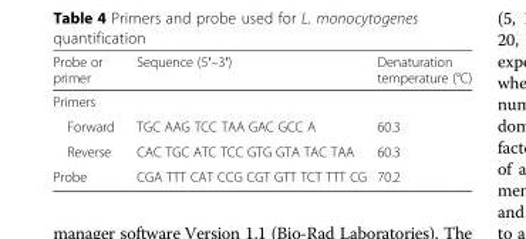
<table><thead><tr><td>Probe or primer</td><td>Sequence (5′–3′)</td><td>Denaturation temperature (°C)</td></tr></thead><tbody><tr><td colspan="3">Primers</td></tr><tr><td>Forward</td><td>TGC AAG TCC TAA GAC GCC A</td><td>60.3</td></tr><tr><td>Reverse</td><td>CAC TGC ATC TCC GTG GTA TAC TAA</td><td>60.3</td></tr><tr><td>Probe</td><td>CGA TTT CAT CCG CGT GTT TCT TTT CG</td><td>70.2</td></tr></tbody></table>